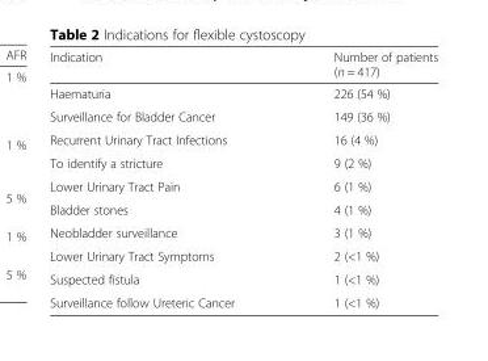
<table><thead><tr><td>Indication</td><td>Number of patients (n = 417)</td></tr></thead><tbody><tr><td>Haematuria</td><td>226 (54 %)</td></tr><tr><td>Surveillance for Bladder Cancer</td><td>149 (36 %)</td></tr><tr><td>Recurrent Urinary Tract Infections</td><td>16 (4 %)</td></tr><tr><td>To identify a stricture</td><td>9 (2 %)</td></tr><tr><td>Lower Urinary Tract Pain</td><td>6 (1 %)</td></tr><tr><td>Bladder stones</td><td>4 (1 %)</td></tr><tr><td>Neobladder surveillance</td><td>3 (1 %)</td></tr><tr><td>Lower Urinary Tract Symptoms</td><td>2 (&lt;1 %)</td></tr><tr><td>Suspected fistula</td><td>1 (&lt;1 %)</td></tr><tr><td>Surveillance follow Ureteric Cancer</td><td>1 (&lt;1 %)</td></tr></tbody></table>